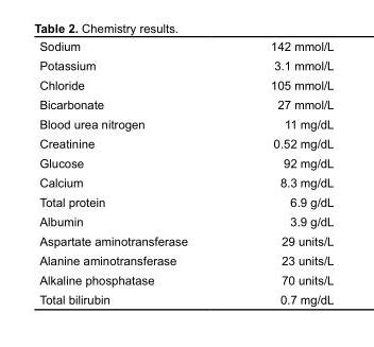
<table><tbody><tr><td>Sodium</td><td>142 mmol/L</td></tr><tr><td>Potassium</td><td>3.1 mmol/L</td></tr><tr><td>Chloride</td><td>105 mmol/L</td></tr><tr><td>Bicarbonate</td><td>27 mmol/L</td></tr><tr><td>Blood urea nitrogen</td><td>11 mg/dL</td></tr><tr><td>Creatinine</td><td>0.52 mg/dL</td></tr><tr><td>Glucose</td><td>92 mg/dL</td></tr><tr><td>Calcium</td><td>8.3 mg/dL</td></tr><tr><td>Total protein</td><td>6.9 g/dL</td></tr><tr><td>Albumin</td><td>3.9 g/dL</td></tr><tr><td>Aspartate aminotransferase</td><td>29 units/L</td></tr><tr><td>Alanine aminotransferase</td><td>23 units/L</td></tr><tr><td>Alkaline phosphatase</td><td>70 units/L</td></tr><tr><td>Total bilirubin</td><td>0.7 mg/dL</td></tr></tbody></table>